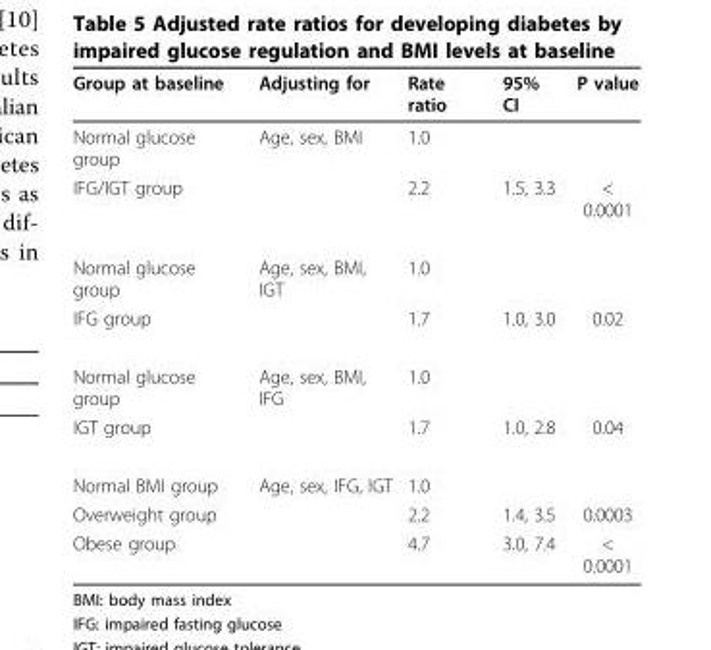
<table><thead><tr><td>Group at baseline</td><td>Adjusting for</td><td>Rate ratio</td><td>95% CI</td><td>P value</td></tr></thead><tbody><tr><td>Normal glucose group</td><td>Age, sex, BMI</td><td>1.0</td><td></td><td></td></tr><tr><td>IFG/IGT group</td><td></td><td>2.2</td><td>1.5, 3.3</td><td>&lt; 0.0001</td></tr><tr><td>Normal glucose group</td><td>Age, sex, BMI, IGT</td><td>1.0</td><td></td><td></td></tr><tr><td>IFG group</td><td></td><td>1.7</td><td>1.0, 3.0</td><td>0.02</td></tr><tr><td>Normal glucose group</td><td>Age, sex, BMI, IFG</td><td>1.0</td><td></td><td></td></tr><tr><td>IGT group</td><td></td><td>1.7</td><td>1.0, 2.8</td><td>0.04</td></tr><tr><td>Normal BMI group</td><td>Age, sex, IFG, IGT</td><td>1.0</td><td></td><td></td></tr><tr><td>Overweight group</td><td></td><td>2.2</td><td>1.4, 3.5</td><td>0.0003</td></tr><tr><td>Obese group</td><td></td><td>4.7</td><td>3.0, 7.4</td><td>&lt; 0.0001</td></tr></tbody></table>